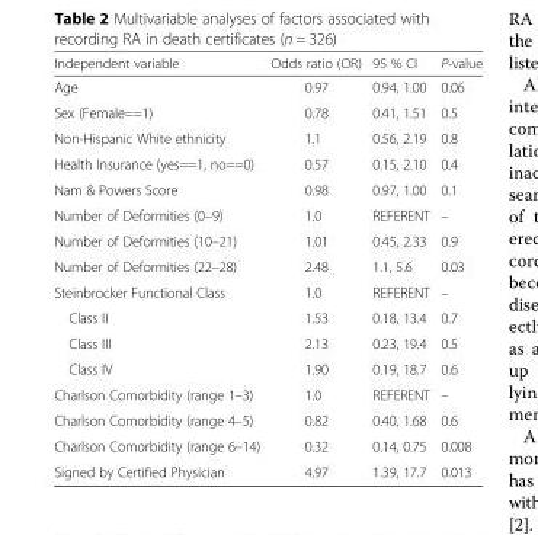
<table><thead><tr><td>Independent variable</td><td>Odds ratio (OR)</td><td>95 % CI</td><td>P-value</td></tr></thead><tbody><tr><td>Age</td><td>0.97</td><td>0.94, 1.00</td><td>0.06</td></tr><tr><td>Sex (Female==1)</td><td>0.78</td><td>0.41, 1.51</td><td>0.5</td></tr><tr><td>Non-Hispanic White ethnicity</td><td>1.1</td><td>0.56, 2.19</td><td>0.8</td></tr><tr><td>Health Insurance (yes==1, no==0)</td><td>0.57</td><td>0.15, 2.10</td><td>0.4</td></tr><tr><td>Nam &amp; Powers Score</td><td>0.98</td><td>0.97, 1.00</td><td>0.1</td></tr><tr><td>Number of Deformities (0–9)</td><td>1.0</td><td>REFERENT</td><td>–</td></tr><tr><td>Number of Deformities (10–21)</td><td>1.01</td><td>0.45, 2.33</td><td>0.9</td></tr><tr><td>Number of Deformities (22–28)</td><td>2.48</td><td>1.1, 5.6</td><td>0.03</td></tr><tr><td>Steinbrocker Functional Class</td><td>1.0</td><td>REFERENT</td><td>–</td></tr><tr><td>Class II</td><td>1.53</td><td>0.18, 13.4</td><td>0.7</td></tr><tr><td>Class III</td><td>2.13</td><td>0.23, 19.4</td><td>0.5</td></tr><tr><td>Class IV</td><td>1.90</td><td>0.19, 18.7</td><td>0.6</td></tr><tr><td>Charlson Comorbidity (range 1–3)</td><td>1.0</td><td>REFERENT</td><td>–</td></tr><tr><td>Charlson Comorbidity (range 4–5)</td><td>0.82</td><td>0.40, 1.68</td><td>0.6</td></tr><tr><td>Charlson Comorbidity (range 6–14)</td><td>0.32</td><td>0.14, 0.75</td><td>0.008</td></tr><tr><td>Signed by Certified Physician</td><td>4.97</td><td>1.39, 17.7</td><td>0.013</td></tr></tbody></table>